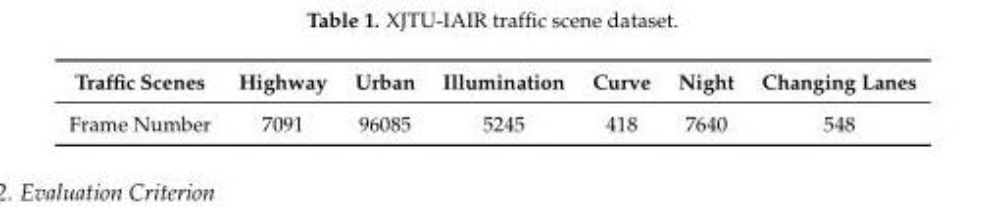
<table><thead><tr><td>Traffic Scenes</td><td>Highway</td><td>Urban</td><td>Illumination</td><td>Curve</td><td>Night</td><td>Changing Lanes</td></tr></thead><tbody><tr><td>Frame Number</td><td>7091</td><td>96085</td><td>5245</td><td>418</td><td>7640</td><td>548</td></tr></tbody></table>